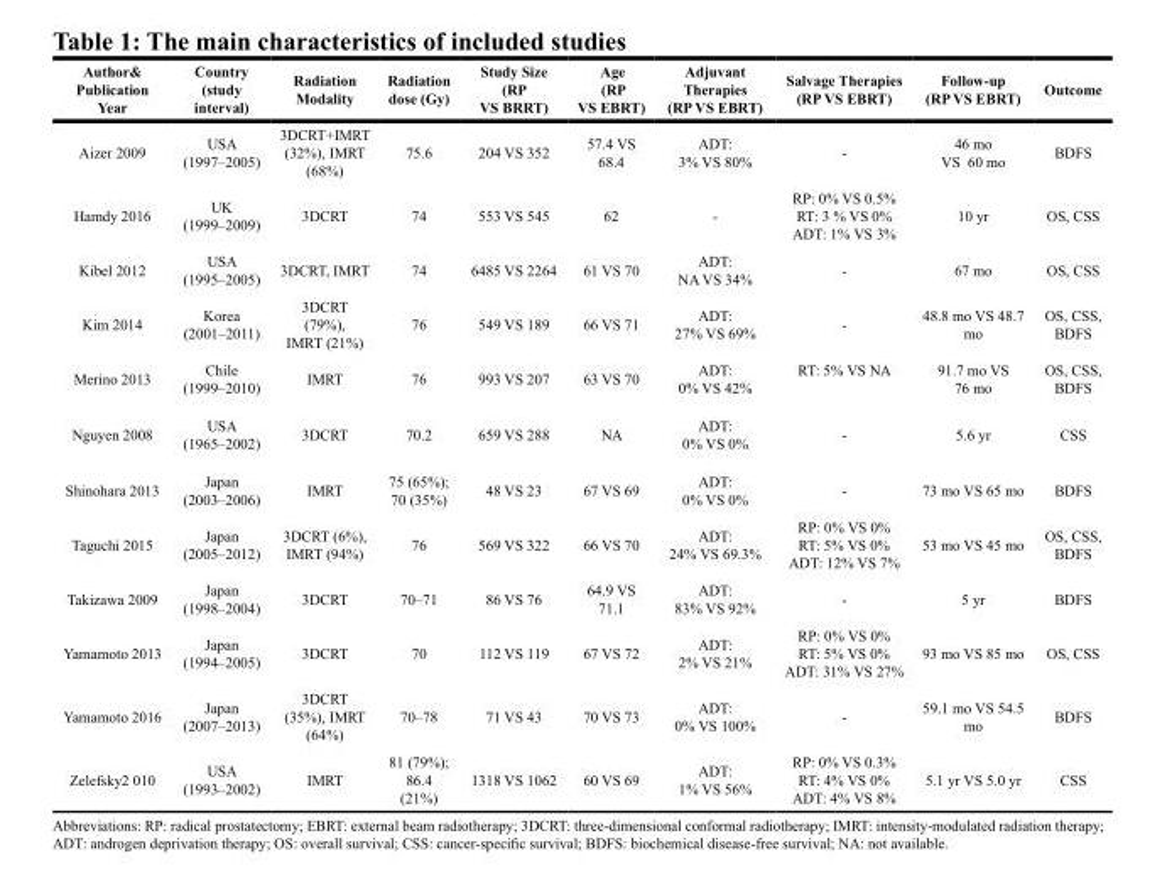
<table><thead><tr><td>Author&amp; Publication Year</td><td>Country (study interval)</td><td>Radiation Modality</td><td>Radiation dose (Gy)</td><td>Study Size (RP VS BRRT)</td><td>Age (RP VS EBRT)</td><td>Adjuvant Therapies (RP VS EBRT)</td><td>Salvage Therapies (RP VS EBRT)</td><td>Follow-up (RP VS EBRT)</td><td>Outcome</td></tr></thead><tbody><tr><td>Aizer 2009</td><td>USA (1997–2005)</td><td>3DCRT+IMRT (32%), IMRT (68%)</td><td>75.6</td><td>204 VS 352</td><td>57.4 VS 68.4</td><td>ADT: 3% VS 80%</td><td>-</td><td>46 mo VS 60 mo</td><td>BDFS</td></tr><tr><td>Hamdy 2016</td><td>UK (1999–2009)</td><td>3DCRT</td><td>74</td><td>553 VS 545</td><td>62</td><td>-</td><td>RP: 0% VS 0.5% RT: 3 % VS 0% ADT: 1% VS 3%</td><td>10 yr</td><td>OS, CSS</td></tr><tr><td>Kibel 2012</td><td>USA (1995–2005)</td><td>3DCRT, IMRT</td><td>74</td><td>6485 VS 2264</td><td>61 VS 70</td><td>ADT: NA VS 34%</td><td>-</td><td>67 mo</td><td>OS, CSS</td></tr><tr><td>Kim 2014</td><td>Korea (2001–2011)</td><td>3DCRT (79%), IMRT (21%)</td><td>76</td><td>549 VS 189</td><td>66 VS 71</td><td>ADT: 27% VS 69%</td><td>-</td><td>48.8 mo VS 48.7 mo</td><td>OS, CSS, BDFS</td></tr><tr><td>Merino 2013</td><td>Chile (1999–2010)</td><td>IMRT</td><td>76</td><td>993 VS 207</td><td>63 VS 70</td><td>ADT: 0% VS 42%</td><td>RT: 5% VS NA</td><td>91.7 mo VS 76 mo</td><td>OS, CSS, BDFS</td></tr><tr><td>Nguyen 2008</td><td>USA (1965–2002)</td><td>3DCRT</td><td>70.2</td><td>659 VS 288</td><td>NA</td><td>ADT: 0% VS 0%</td><td>-</td><td>5.6 yr</td><td>CSS</td></tr><tr><td>Shinohara 2013</td><td>Japan (2003–2006)</td><td>IMRT</td><td>75 (65%); 70 (35%)</td><td>48 VS 23</td><td>67 VS 69</td><td>ADT: 0% VS 0%</td><td>-</td><td>73 mo VS 65 mo</td><td>BDFS</td></tr><tr><td>Taguchi 2015</td><td>Japan (2005–2012)</td><td>3DCRT (6%), IMRT (94%)</td><td>76</td><td>569 VS 322</td><td>66 VS 70</td><td>ADT: 24% VS 69.3%</td><td>RP: 0% VS 0% RT: 5% VS 0% ADT: 12% VS 7%</td><td>53 mo VS 45 mo</td><td>OS, CSS, BDFS</td></tr><tr><td>Takizawa 2009</td><td>Japan (1998–2004)</td><td>3DCRT</td><td>70–71</td><td>86 VS 76</td><td>64.9 VS 71.1</td><td>ADT: 83% VS 92%</td><td>-</td><td>5 yr</td><td>BDFS</td></tr><tr><td>Yamamoto 2013</td><td>Japan (1994–2005)</td><td>3DCRT</td><td>70</td><td>112 VS 119</td><td>67 VS 72</td><td>ADT: 2% VS 21%</td><td>RP: 0% VS 0% RT: 5% VS 0% ADT: 31% VS 27%</td><td>93 mo VS 85 mo</td><td>OS, CSS</td></tr><tr><td>Yamamoto 2016</td><td>Japan (2007–2013)</td><td>3DCRT (35%), IMRT (64%)</td><td>70–78</td><td>71 VS 43</td><td>70 VS 73</td><td>ADT: 0% VS 100%</td><td>-</td><td>59.1 mo VS 54.5 mo</td><td>BDFS</td></tr><tr><td>Zelefsky2 010</td><td>USA (1993–2002)</td><td>IMRT</td><td>81 (79%); 86.4 (21%)</td><td>1318 VS 1062</td><td>60 VS 69</td><td>ADT: 1% VS 56%</td><td>RP: 0% VS 0.3% RT: 4% VS 0% ADT: 4% VS 8%</td><td>5.1 yr VS 5.0 yr</td><td>CSS</td></tr></tbody></table>